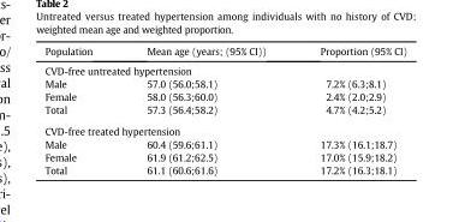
<table><thead><tr><td>Population</td><td>Mean age (years; (95% CI))</td><td>Proportion (95% CI)</td></tr></thead><tbody><tr><td colspan="3">CVD-free untreated hypertension</td></tr><tr><td>Male</td><td>57.0 (56.0;58.1)</td><td>7.2% (6.3;8.1)</td></tr><tr><td>Female</td><td>58.0 (56.3;60.0)</td><td>2.4% (2.0;2.9)</td></tr><tr><td>Total</td><td>57.3 (56.4;58.2)</td><td>4.7% (4.2;5.2)</td></tr><tr><td colspan="3">CVD-free treated hypertension</td></tr><tr><td>Male</td><td>60.4 (59.6;61.1)</td><td>17.3% (16.1;18.7)</td></tr><tr><td>Female</td><td>61.9 (61.2;62.5)</td><td>17.0% (15.9;18.2)</td></tr><tr><td>Total</td><td>61.1 (60.6;61.6)</td><td>17.2% (16.3;18.1)</td></tr></tbody></table>